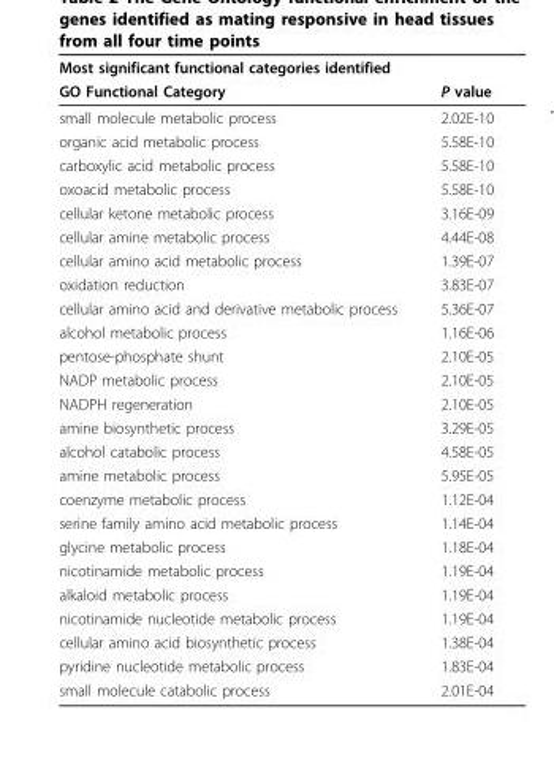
<table><thead><tr><td colspan="2">Most significant functional categories identified</td></tr><tr><td>GO Functional Category</td><td>P value</td></tr></thead><tbody><tr><td>small molecule metabolic process</td><td>2.02E-10</td></tr><tr><td>organic acid metabolic process</td><td>5.58E-10</td></tr><tr><td>carboxylic acid metabolic process</td><td>5.58E-10</td></tr><tr><td>oxoacid metabolic process</td><td>5.58E-10</td></tr><tr><td>cellular ketone metabolic process</td><td>3.16E-09</td></tr><tr><td>cellular amine metabolic process</td><td>4.44E-08</td></tr><tr><td>cellular amino acid metabolic process</td><td>1.39E-07</td></tr><tr><td>oxidation reduction</td><td>3.83E-07</td></tr><tr><td>cellular amino acid and derivative metabolic process</td><td>5.36E-07</td></tr><tr><td>alcohol metabolic process</td><td>1.16E-06</td></tr><tr><td>pentose-phosphate shunt</td><td>2.10E-05</td></tr><tr><td>NADP metabolic process</td><td>2.10E-05</td></tr><tr><td>NADPH regeneration</td><td>2.10E-05</td></tr><tr><td>amine biosynthetic process</td><td>3.29E-05</td></tr><tr><td>alcohol catabolic process</td><td>4.58E-05</td></tr><tr><td>amine metabolic process</td><td>5.95E-05</td></tr><tr><td>coenzyme metabolic process</td><td>1.12E-04</td></tr><tr><td>serine family amino acid metabolic process</td><td>1.14E-04</td></tr><tr><td>glycine metabolic process</td><td>1.18E-04</td></tr><tr><td>nicotinamide metabolic process</td><td>1.19E-04</td></tr><tr><td>alkaloid metabolic process</td><td>1.19E-04</td></tr><tr><td>nicotinamide nucleotide metabolic process</td><td>1.19E-04</td></tr><tr><td>cellular amino acid biosynthetic process</td><td>1.38E-04</td></tr><tr><td>pyridine nucleotide metabolic process</td><td>1.83E-04</td></tr><tr><td>small molecule catabolic process</td><td>2.01E-04</td></tr></tbody></table>